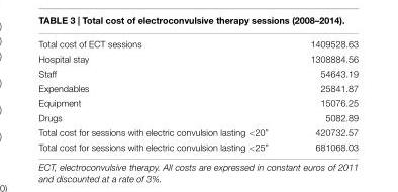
<table><tbody><tr><td>Total cost of ECT sessions</td><td>1409528.63</td></tr><tr><td>Hospital stay</td><td>1308884.56</td></tr><tr><td>Staff</td><td>54643.19</td></tr><tr><td>Expendables</td><td>25841.87</td></tr><tr><td>Equipment</td><td>15076.25</td></tr><tr><td>Drugs</td><td>5082.89</td></tr><tr><td>Total cost for sessions with electric convulsion lasting &lt;20”</td><td>420732.57</td></tr><tr><td>Total cost for sessions with electric convulsion lasting &lt;25”</td><td>681068.03</td></tr></tbody></table>